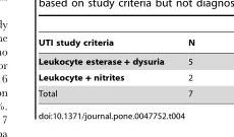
<table><thead><tr><td>UTI study criteria</td><td>N</td></tr></thead><tbody><tr><td>Leukocyte esterase + dysuria</td><td>5</td></tr><tr><td>Leukocyte + nitrites</td><td>2</td></tr><tr><td>Total</td><td>7</td></tr></tbody></table>